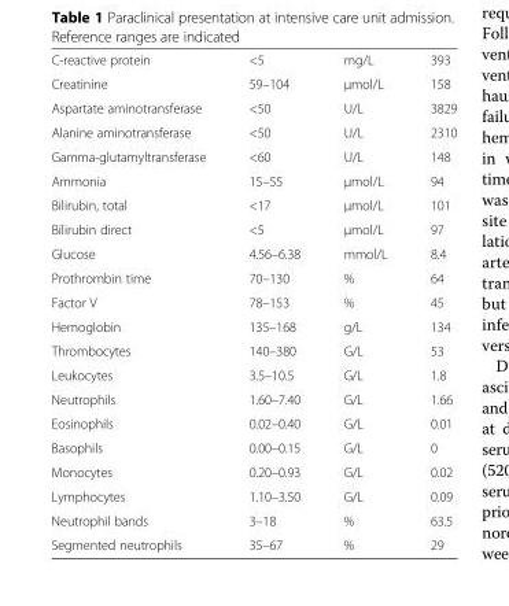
<table><tbody><tr><td>C-reactive protein</td><td>&lt;5</td><td>mg/L</td><td>393</td></tr><tr><td>Creatinine</td><td>59–104</td><td>μmol/L</td><td>158</td></tr><tr><td>Aspartate aminotransferase</td><td>&lt;50</td><td>U/L</td><td>3829</td></tr><tr><td>Alanine aminotransferase</td><td>&lt;50</td><td>U/L</td><td>2310</td></tr><tr><td>Gamma-glutamyltransferase</td><td>&lt;60</td><td>U/L</td><td>148</td></tr><tr><td>Ammonia</td><td>15–55</td><td>μmol/L</td><td>94</td></tr><tr><td>Bilirubin, total</td><td>&lt;17</td><td>μmol/L</td><td>101</td></tr><tr><td>Bilirubin direct</td><td>&lt;5</td><td>μmol/L</td><td>97</td></tr><tr><td>Glucose</td><td>4.56–6.38</td><td>mmol/L</td><td>8.4</td></tr><tr><td>Prothrombin time</td><td>70–130</td><td>%</td><td>64</td></tr><tr><td>Factor V</td><td>78–153</td><td>%</td><td>45</td></tr><tr><td>Hemoglobin</td><td>135–168</td><td>g/L</td><td>134</td></tr><tr><td>Thrombocytes</td><td>140–380</td><td>G/L</td><td>53</td></tr><tr><td>Leukocytes</td><td>3.5–10.5</td><td>G/L</td><td>1.8</td></tr><tr><td>Neutrophils</td><td>1.60–7.40</td><td>G/L</td><td>1.66</td></tr><tr><td>Eosinophils</td><td>0.02–0.40</td><td>G/L</td><td>0.01</td></tr><tr><td>Basophils</td><td>0.00–0.15</td><td>G/L</td><td>0</td></tr><tr><td>Monocytes</td><td>0.20–0.93</td><td>G/L</td><td>0.02</td></tr><tr><td>Lymphocytes</td><td>1.10–3.50</td><td>G/L</td><td>0.09</td></tr><tr><td>Neutrophil bands</td><td>3–18</td><td>%</td><td>63.5</td></tr><tr><td>Segmented neutrophils</td><td>35–67</td><td>%</td><td>29</td></tr></tbody></table>